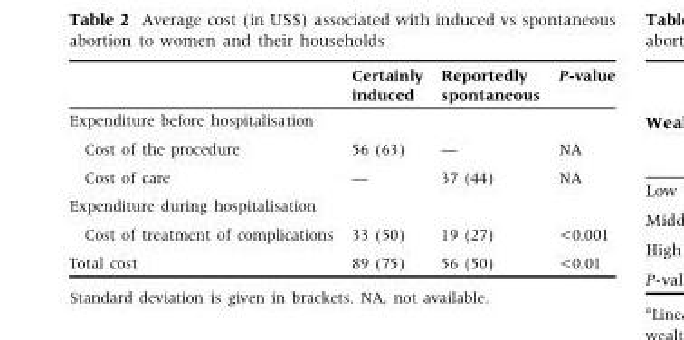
<table><thead><tr><td></td><td>Certainly induced</td><td>Reportedly spontaneous</td><td>P-value</td></tr></thead><tbody><tr><td colspan="4">Expenditure before hospitalisation</td></tr><tr><td>Cost of the procedure</td><td>56 (63)</td><td>—</td><td>NA</td></tr><tr><td>Cost of care</td><td>—</td><td>37 (44)</td><td>NA</td></tr><tr><td colspan="4">Expenditure during hospitalisation</td></tr><tr><td>Cost of treatment of complications</td><td>33 (50)</td><td>19 (27)</td><td>&lt;0.001</td></tr><tr><td>Total cost</td><td>89 (75)</td><td>56 (50)</td><td>&lt;0.01</td></tr></tbody></table>